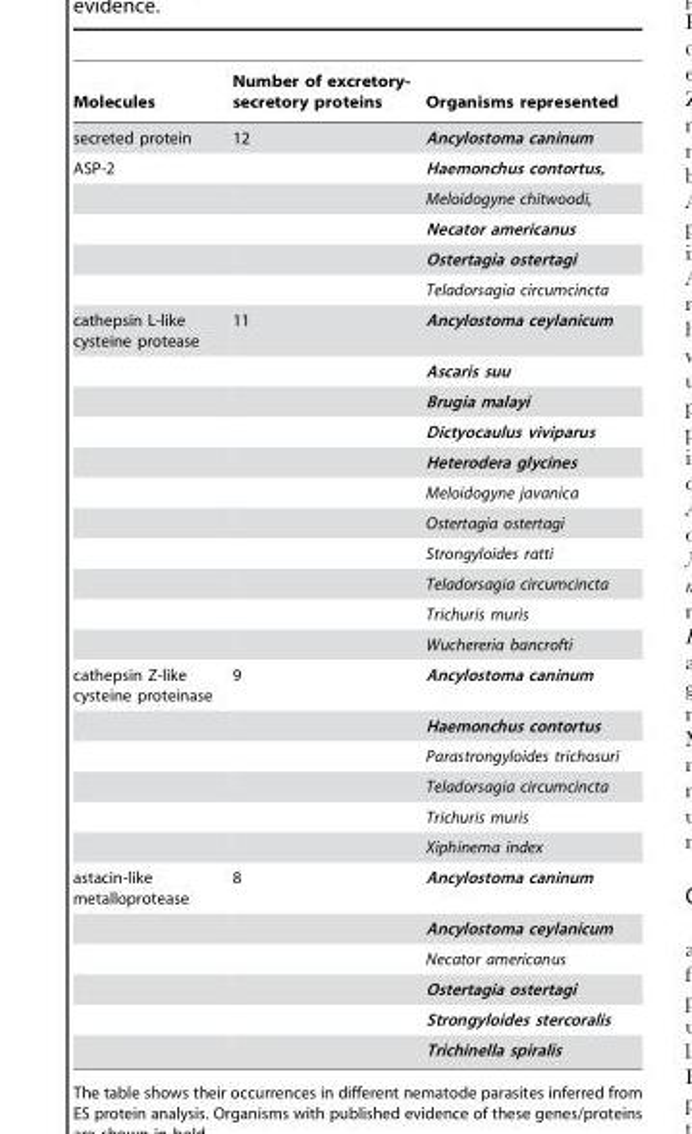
<table><thead><tr><td>Molecules</td><td>Number of excretory- secretory proteins</td><td>Organisms represented</td></tr></thead><tbody><tr><td>secreted protein</td><td>12</td><td>Ancylostoma caninum</td></tr><tr><td rowspan="5">ASP-2</td><td></td><td>Haemonchus contortus,</td></tr><tr><td></td><td>Meloidogyne chitwoodi,</td></tr><tr><td></td><td>Necator americanus</td></tr><tr><td></td><td>Ostertagia ostertagi</td></tr><tr><td></td><td>Teladorsagia circumcincta</td></tr><tr><td rowspan="11">cathepsin L-like cysteine protease</td><td>11</td><td>Ancylostoma ceylanicum</td></tr><tr><td></td><td>Ascaris suu</td></tr><tr><td></td><td>Brugia malayi</td></tr><tr><td></td><td>Dictyocaulus viviparus</td></tr><tr><td></td><td>Heterodera glycines</td></tr><tr><td></td><td>Meloidogyne javanica</td></tr><tr><td></td><td>Ostertagia ostertagi</td></tr><tr><td></td><td>Strongyloides ratti</td></tr><tr><td></td><td>Teladorsagia circumcincta</td></tr><tr><td></td><td>Trichuris muris</td></tr><tr><td></td><td>Wuchereria bancrofti</td></tr><tr><td rowspan="6">cathepsin Z-like cysteine proteinase</td><td>9</td><td>Ancylostoma caninum</td></tr><tr><td></td><td>Haemonchus contortus</td></tr><tr><td></td><td>Parastrongyloides trichosuri</td></tr><tr><td></td><td>Teladorsagia circumcincta</td></tr><tr><td></td><td>Trichuris muris</td></tr><tr><td></td><td>Xiphinema index</td></tr><tr><td rowspan="6">astacin-like metalloprotease</td><td>8</td><td>Ancylostoma caninum</td></tr><tr><td></td><td>Ancylostoma ceylanicum</td></tr><tr><td></td><td>Necator americanus</td></tr><tr><td></td><td>Ostertagia ostertagi</td></tr><tr><td></td><td>Strongyloides stercoralis</td></tr><tr><td></td><td>Trichinella spiralis</td></tr></tbody></table>